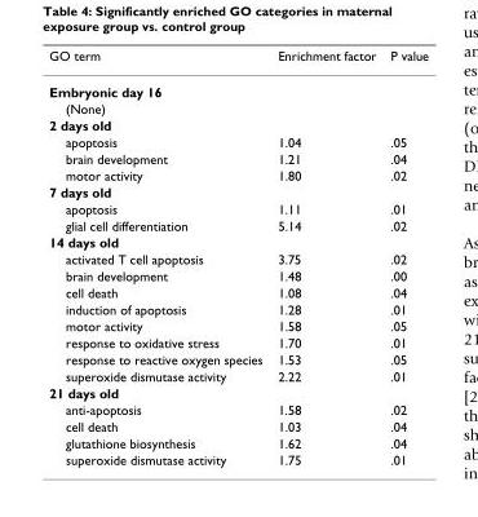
<table><thead><tr><td>GO term</td><td>Enrichment factor</td><td>P value</td></tr></thead><tbody><tr><td colspan="3">Embryonic day 16</td></tr><tr><td colspan="3">(None)</td></tr><tr><td colspan="3">2 days old</td></tr><tr><td>apoptosis</td><td>1.04</td><td>.05</td></tr><tr><td>brain development</td><td>1.21</td><td>.04</td></tr><tr><td>motor activity</td><td>1.80</td><td>.02</td></tr><tr><td colspan="3">7 days old</td></tr><tr><td>apoptosis</td><td>1.11</td><td>.01</td></tr><tr><td>glial cell differentiation</td><td>5.14</td><td>.02</td></tr><tr><td colspan="3">14 days old</td></tr><tr><td>activated T cell apoptosis</td><td>3.75</td><td>.02</td></tr><tr><td>brain development</td><td>1.48</td><td>.00</td></tr><tr><td>cell death</td><td>1.08</td><td>.04</td></tr><tr><td>induction of apoptosis</td><td>1.28</td><td>.01</td></tr><tr><td>motor activity</td><td>1.58</td><td>.05</td></tr><tr><td>response to oxidative stress</td><td>1.70</td><td>.01</td></tr><tr><td>response to reactive oxygen species</td><td>1.53</td><td>.05</td></tr><tr><td>superoxide dismutase activity</td><td>2.22</td><td>.01</td></tr><tr><td colspan="3">21 days old</td></tr><tr><td>anti-apoptosis</td><td>1.58</td><td>.02</td></tr><tr><td>cell death</td><td>1.03</td><td>.04</td></tr><tr><td>glutathione biosynthesis</td><td>1.62</td><td>.04</td></tr><tr><td>superoxide dismutase activity</td><td>1.75</td><td>.01</td></tr></tbody></table>